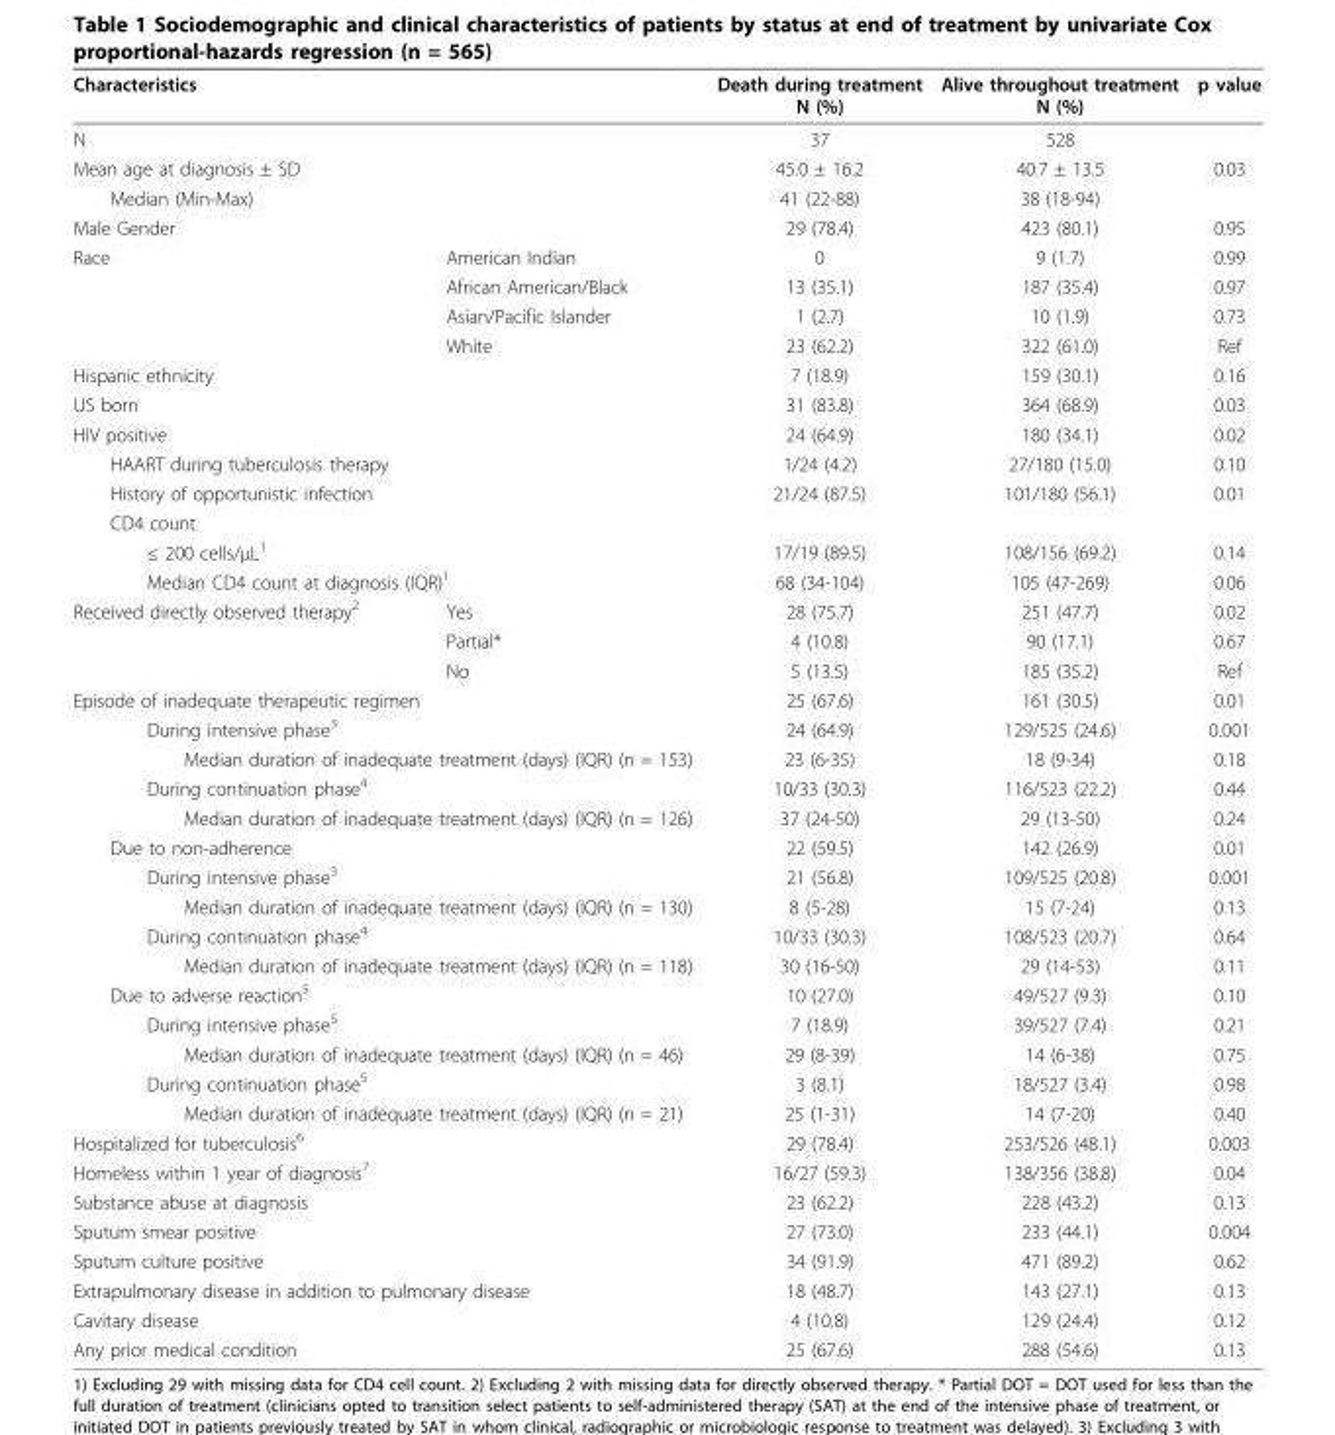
<table><thead><tr><td colspan="2">Characteristics</td><td>Death during treatment N (%)</td><td>Alive throughout treatment N (%)</td><td>p value</td></tr></thead><tbody><tr><td colspan="2">N</td><td>37</td><td>528</td><td></td></tr><tr><td colspan="2">Mean age at diagnosis ± SD</td><td>45.0 ± 16.2</td><td>40.7 ± 13.5</td><td>0.03</td></tr><tr><td colspan="2">Median (Min-Max)</td><td>41 (22-88)</td><td>38 (18-94)</td><td></td></tr><tr><td colspan="2">Male Gender</td><td>29 (78.4)</td><td>423 (80.1)</td><td>0.95</td></tr><tr><td rowspan="4">Race</td><td>American Indian</td><td>0</td><td>9 (1.7)</td><td>0.99</td></tr><tr><td>African American/Black</td><td>13 (35.1)</td><td>187 (35.4)</td><td>0.97</td></tr><tr><td>Asian/Pacific Islander</td><td>1 (2.7)</td><td>10 (1.9)</td><td>0.73</td></tr><tr><td>White</td><td>23 (62.2)</td><td>322 (61.0)</td><td>Ref</td></tr><tr><td colspan="2">Hispanic ethnicity</td><td>7 (18.9)</td><td>159 (30.1)</td><td>0.16</td></tr><tr><td colspan="2">US born</td><td>31 (83.8)</td><td>364 (68.9)</td><td>0.03</td></tr><tr><td colspan="2">HIV positive</td><td>24 (64.9)</td><td>180 (34.1)</td><td>0.02</td></tr><tr><td colspan="2">HAART during tuberculosis therapy</td><td>1/24 (4.2)</td><td>27/180 (15.0)</td><td>0.10</td></tr><tr><td colspan="2">History of opportunistic infection</td><td>21/24 (87.5)</td><td>101/180 (56.1)</td><td>0.01</td></tr><tr><td colspan="5">CD4 count</td></tr><tr><td colspan="2">≤ 200 cells/μL<sup>1</sup></td><td>17/19 (89.5)</td><td>108/156 (69.2)</td><td>0.14</td></tr><tr><td colspan="2">Median CD4 count at diagnosis (IQR)<sup>1</sup></td><td>68 (34-104)</td><td>105 (47-269)</td><td>0.06</td></tr><tr><td rowspan="3">Received directly observed therapy<sup>2</sup></td><td>Yes</td><td>28 (75.7)</td><td>251 (47.7)</td><td>0.02</td></tr><tr><td>Partial*</td><td>4 (10.8)</td><td>90 (17.1)</td><td>0.67</td></tr><tr><td>No</td><td>5 (13.5)</td><td>185 (35.2)</td><td>Ref</td></tr><tr><td colspan="2">Episode of inadequate therapeutic regimen</td><td>25 (67.6)</td><td>161 (30.5)</td><td>0.01</td></tr><tr><td colspan="2">During intensive phase<sup>3</sup></td><td>24 (64.9)</td><td>129/525 (24.6)</td><td>0.001</td></tr><tr><td colspan="2">Median duration of inadequate treatment (days) (IQR) (n = 153)</td><td>23 (6-35)</td><td>18 (9-34)</td><td>0.18</td></tr><tr><td colspan="2">During continuation phase<sup>4</sup></td><td>10/33 (30.3)</td><td>116/523 (22.2)</td><td>0.44</td></tr><tr><td colspan="2">Median duration of inadequate treatment (days) (IQR) (n = 126)</td><td>37 (24-50)</td><td>29 (13-50)</td><td>0.24</td></tr><tr><td colspan="2">Due to non-adherence</td><td>22 (59.5)</td><td>142 (26.9)</td><td>0.01</td></tr><tr><td colspan="2">During intensive phase<sup>3</sup></td><td>21 (56.8)</td><td>109/525 (20.8)</td><td>0.001</td></tr><tr><td colspan="2">Median duration of inadequate treatment (days) (IQR) (n = 130)</td><td>8 (5-28)</td><td>15 (7-24)</td><td>0.13</td></tr><tr><td colspan="2">During continuation phase<sup>4</sup></td><td>10/33 (30.3)</td><td>108/523 (20.7)</td><td>0.64</td></tr><tr><td colspan="2">Median duration of inadequate treatment (days) (IQR) (n = 118)</td><td>30 (16-50)</td><td>29 (14-53)</td><td>0.11</td></tr><tr><td colspan="2">Due to adverse reaction<sup>5</sup></td><td>10 (27.0)</td><td>49/527 (9.3)</td><td>0.10</td></tr><tr><td colspan="2">During intensive phase<sup>5</sup></td><td>7 (18.9)</td><td>39/527 (7.4)</td><td>0.21</td></tr><tr><td colspan="2">Median duration of inadequate treatment (days) (IQR) (n = 46)</td><td>29 (8-39)</td><td>14 (6-38)</td><td>0.75</td></tr><tr><td colspan="2">During continuation phase<sup>5</sup></td><td>3 (8.1)</td><td>18/527 (3.4)</td><td>0.98</td></tr><tr><td colspan="2">Median duration of inadequate treatment (days) (IQR) (n = 21)</td><td>25 (1-31)</td><td>14 (7-20)</td><td>0.40</td></tr><tr><td colspan="2">Hospitalized for tuberculosis<sup>6</sup></td><td>29 (78.4)</td><td>253/526 (48.1)</td><td>0.003</td></tr><tr><td colspan="2">Homeless within 1 year of diagnosis<sup>7</sup></td><td>16/27 (59.3)</td><td>138/356 (38.8)</td><td>0.04</td></tr><tr><td colspan="2">Substance abuse at diagnosis</td><td>23 (62.2)</td><td>228 (43.2)</td><td>0.13</td></tr><tr><td colspan="2">Sputum smear positive</td><td>27 (73.0)</td><td>233 (44.1)</td><td>0.004</td></tr><tr><td colspan="2">Sputum culture positive</td><td>34 (91.9)</td><td>471 (89.2)</td><td>0.62</td></tr><tr><td colspan="2">Extrapulmonary disease in addition to pulmonary disease</td><td>18 (48.7)</td><td>143 (27.1)</td><td>0.13</td></tr><tr><td colspan="2">Cavitary disease</td><td>4 (10.8)</td><td>129 (24.4)</td><td>0.12</td></tr><tr><td colspan="2">Any prior medical condition</td><td>25 (67.6)</td><td>288 (54.6)</td><td>0.13</td></tr></tbody></table>